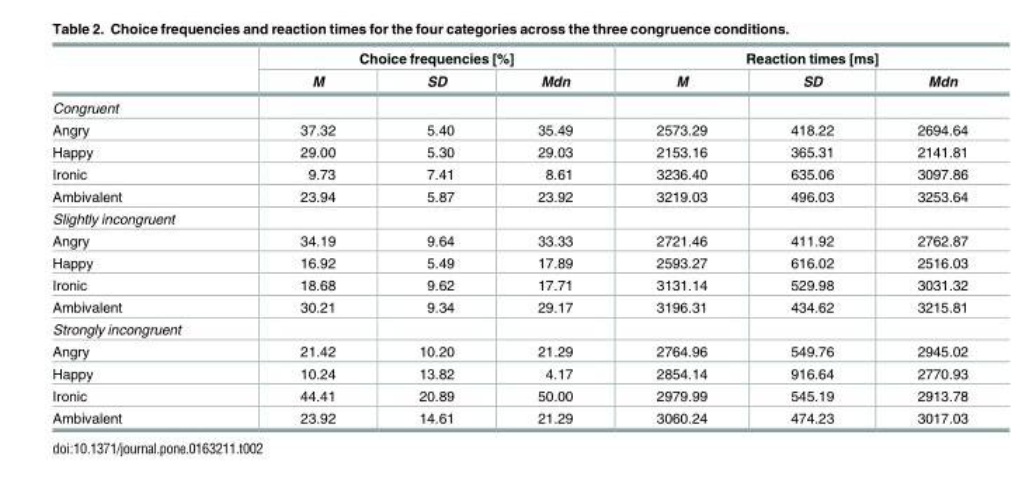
<table><thead><tr><td rowspan="2"></td><td colspan="3">Choice frequencies [%]</td><td colspan="3">Reaction times [ms]</td></tr><tr><td>M</td><td>SD</td><td>Mdn</td><td>M</td><td>SD</td><td>Mdn</td></tr></thead><tbody><tr><td colspan="7">Congruent</td></tr><tr><td>Angry</td><td>37.32</td><td>5.40</td><td>35.49</td><td>2573.29</td><td>418.22</td><td>2694.64</td></tr><tr><td>Happy</td><td>29.00</td><td>5.30</td><td>29.03</td><td>2153.16</td><td>365.31</td><td>2141.81</td></tr><tr><td>Ironic</td><td>9.73</td><td>7.41</td><td>8.61</td><td>3236.40</td><td>635.06</td><td>3097.86</td></tr><tr><td>Ambivalent</td><td>23.94</td><td>5.87</td><td>23.92</td><td>3219.03</td><td>496.03</td><td>3253.64</td></tr><tr><td colspan="7">Slightly incongruent</td></tr><tr><td>Angry</td><td>34.19</td><td>9.64</td><td>33.33</td><td>2721.46</td><td>411.92</td><td>2762.87</td></tr><tr><td>Happy</td><td>16.92</td><td>5.49</td><td>17.89</td><td>2593.27</td><td>616.02</td><td>2516.03</td></tr><tr><td>Ironic</td><td>18.68</td><td>9.62</td><td>17.71</td><td>3131.14</td><td>529.98</td><td>3031.32</td></tr><tr><td>Ambivalent</td><td>30.21</td><td>9.34</td><td>29.17</td><td>3196.31</td><td>434.62</td><td>3215.81</td></tr><tr><td colspan="7">Strongly incongruent</td></tr><tr><td>Angry</td><td>21.42</td><td>10.20</td><td>21.29</td><td>2764.96</td><td>549.76</td><td>2945.02</td></tr><tr><td>Happy</td><td>10.24</td><td>13.82</td><td>4.17</td><td>2854.14</td><td>916.64</td><td>2770.93</td></tr><tr><td>Ironic</td><td>44.41</td><td>20.89</td><td>50.00</td><td>2979.99</td><td>545.19</td><td>2913.78</td></tr><tr><td>Ambivalent</td><td>23.92</td><td>14.61</td><td>21.29</td><td>3060.24</td><td>474.23</td><td>3017.03</td></tr></tbody></table>